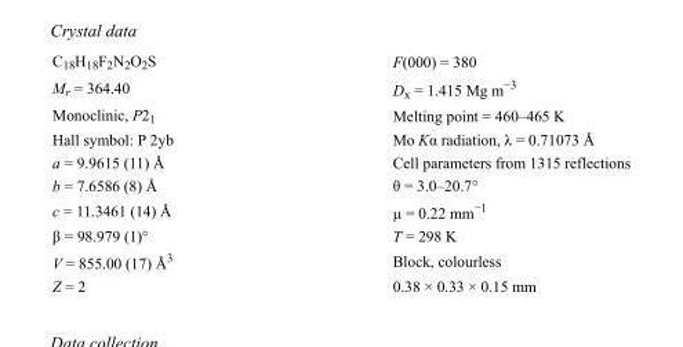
<table><tbody><tr><td>C<sub>18</sub>H<sub>18</sub>F<sub>2</sub>N<sub>2</sub>O<sub>2</sub>S</td><td>F(000) = 380</td></tr><tr><td>M<sub>r</sub> = 364.40</td><td>D<sub>x</sub> = 1.415 Mg m<sup>−3</sup></td></tr><tr><td>Monoclinic, P2<sub>1</sub></td><td>Melting point = 460–465 K</td></tr><tr><td>Hall symbol: P 2yb</td><td>Mo Kα radiation, λ = 0.71073 Å</td></tr><tr><td>a = 9.9615 (11) Å</td><td>Cell parameters from 1315 reflections</td></tr><tr><td>b = 7.6586 (8) Å</td><td>θ = 3.0–20.7°</td></tr><tr><td>c = 11.3461 (14) Å</td><td>µ = 0.22 mm<sup>−1</sup></td></tr><tr><td>β = 98.979 (1)°</td><td>T = 298 K</td></tr><tr><td>V = 855.00 (17) Å<sup>3</sup></td><td>Block, colourless</td></tr><tr><td>Z = 2</td><td>0.38 × 0.33 × 0.15 mm</td></tr></tbody></table>